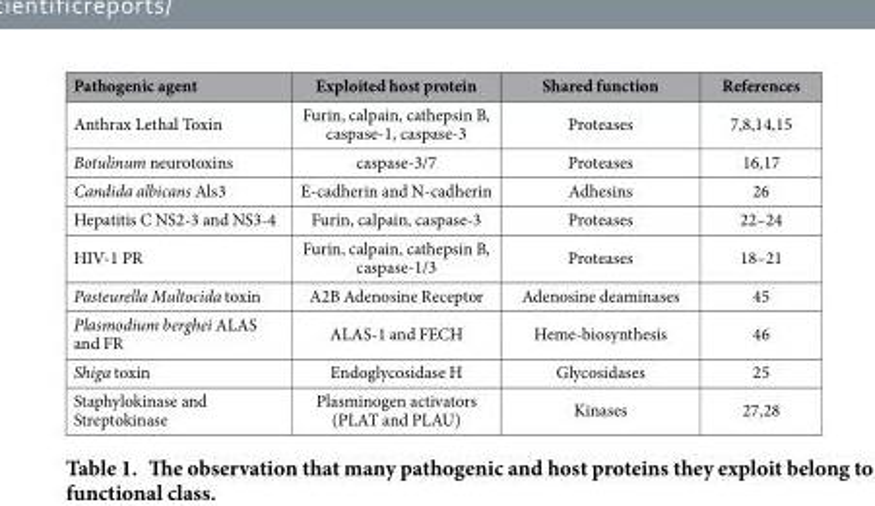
<table><thead><tr><td>Pathogenic agent</td><td>Exploited host protein</td><td>Shared function</td><td>References</td></tr></thead><tbody><tr><td>Anthrax Lethal Toxin</td><td>Furin, calpain, cathepsin B, caspase-1, caspase-3</td><td>Proteases</td><td>7,8,14,15</td></tr><tr><td>Botulinum neurotoxins</td><td>caspase-3/7</td><td>Proteases</td><td>16,17</td></tr><tr><td>Candida albicans Als3</td><td>E-cadherin and N-cadherin</td><td>Adhesins</td><td>26</td></tr><tr><td>Hepatitis C NS2-3 and NS3-4</td><td>Furin, calpain, caspase-3</td><td>Proteases</td><td>22–24</td></tr><tr><td>HIV-1 PR</td><td>Furin, calpain, cathepsin B, caspase-1/3</td><td>Proteases</td><td>18–21</td></tr><tr><td>Pasteurella Multocida toxin</td><td>A2B Adenosine Receptor</td><td>Adenosine deaminases</td><td>45</td></tr><tr><td>Plasmodium berghei ALAS and FR</td><td>ALAS-1 and FECH</td><td>Heme-biosynthesis</td><td>46</td></tr><tr><td>Shiga toxin</td><td>Endoglycosidase H</td><td>Glycosidases</td><td>25</td></tr><tr><td>Staphylokinase and Streptokinase</td><td>Plasminogen activators (PLAT and PLAU)</td><td>Kinases</td><td>27,28</td></tr></tbody></table>